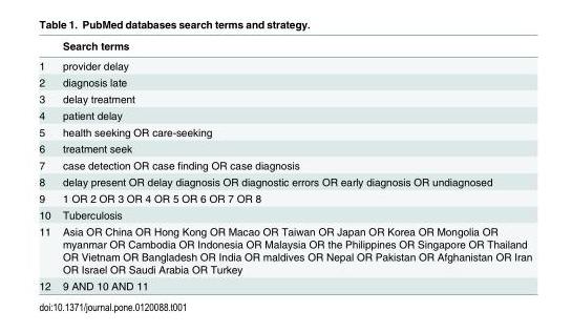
<table><thead><tr><td></td><td>Search terms</td></tr></thead><tbody><tr><td>1</td><td>provider delay</td></tr><tr><td>2</td><td>diagnosis late</td></tr><tr><td>3</td><td>delay treatment</td></tr><tr><td>4</td><td>patient delay</td></tr><tr><td>5</td><td>health seeking OR care-seeking</td></tr><tr><td>6</td><td>treatment seek</td></tr><tr><td>7</td><td>case detection OR case finding OR case diagnosis</td></tr><tr><td>8</td><td>delay present OR delay diagnosis OR diagnostic errors OR early diagnosis OR undiagnosed</td></tr><tr><td>9</td><td>1 OR 2 OR 3 OR 4 OR 5 OR 6 OR 7 OR 8</td></tr><tr><td>10</td><td>Tuberculosis</td></tr><tr><td>11</td><td>Asia OR China OR Hong Kong OR Macao OR Taiwan OR Japan OR Korea OR Mongolia OR myanmar OR Cambodia OR Indonesia OR Malaysia OR the Philippines OR Singapore OR Thailand OR Vietnam OR Bangladesh OR India OR maldives OR Nepal OR Pakistan OR Afghanistan OR Iran OR Israel OR Saudi Arabia OR Turkey</td></tr><tr><td>12</td><td>9 AND 10 AND 11</td></tr></tbody></table>